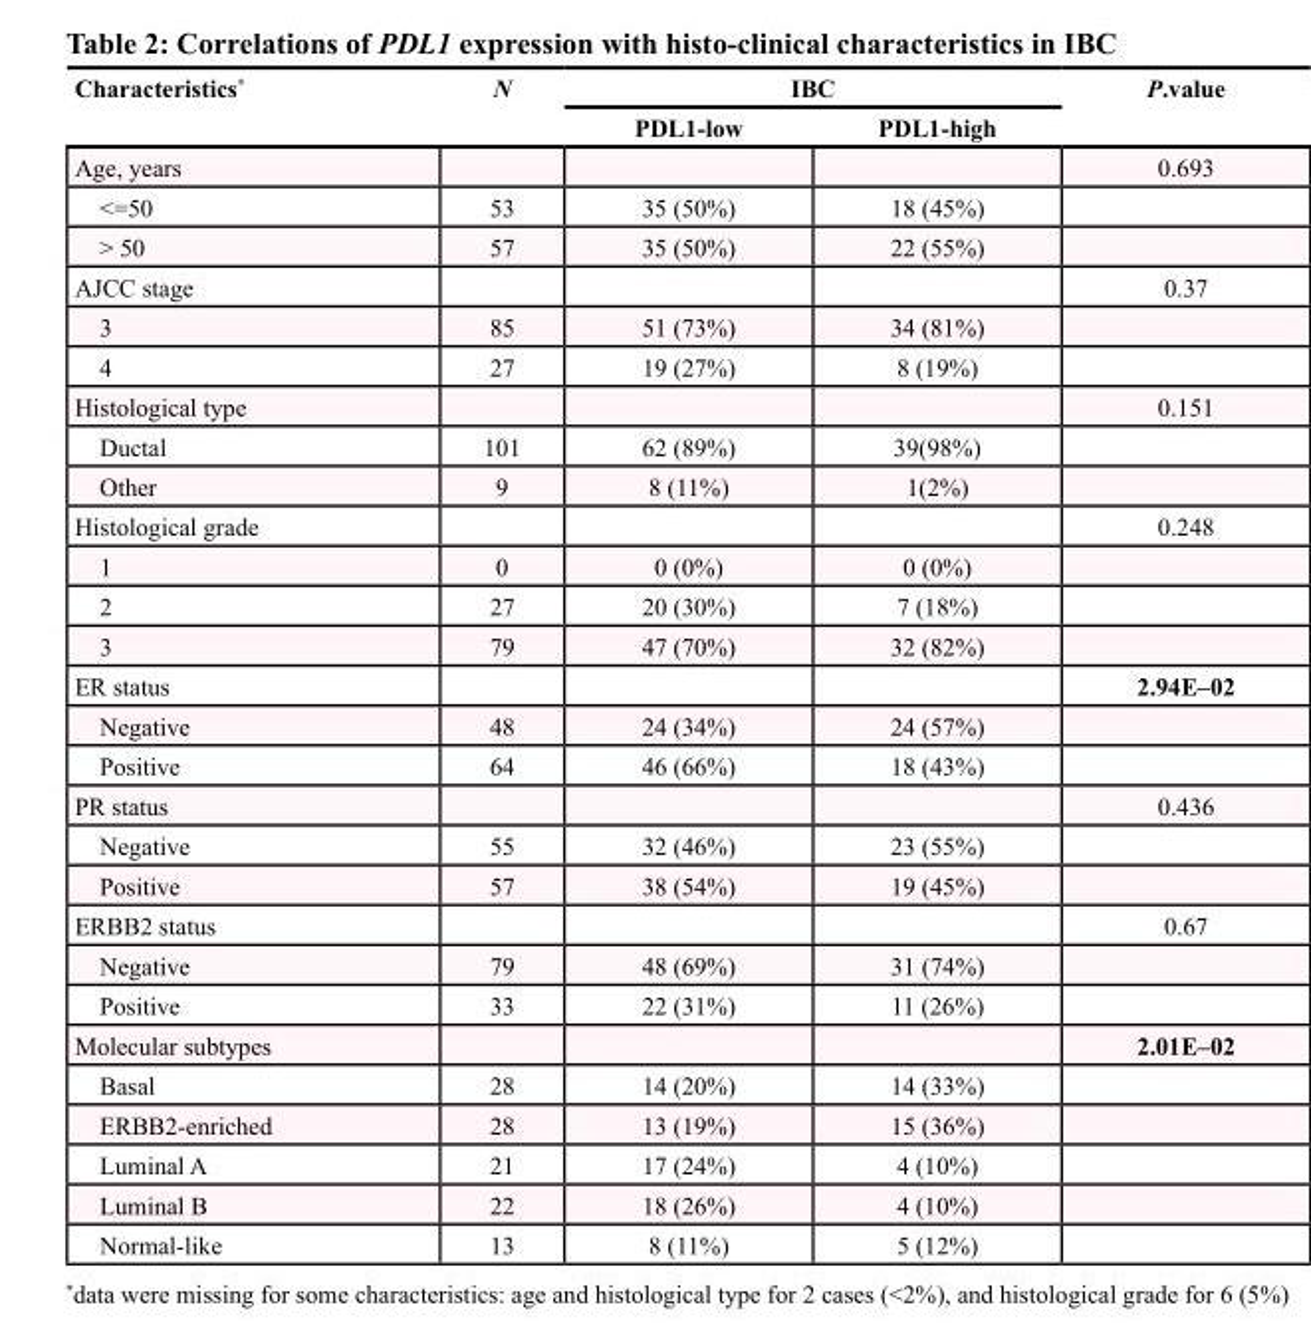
<table><thead><tr><td rowspan="2">Characteristics*</td><td rowspan="2">N</td><td colspan="2">IBC</td><td rowspan="2">P.value</td></tr><tr><td>PDL1-low</td><td>PDL1-high</td></tr></thead><tbody><tr><td>Age, years</td><td></td><td></td><td></td><td>0.693</td></tr><tr><td>&lt;=50</td><td>53</td><td>35 (50%)</td><td>18 (45%)</td><td></td></tr><tr><td>&gt; 50</td><td>57</td><td>35 (50%)</td><td>22 (55%)</td><td></td></tr><tr><td>AJCC stage</td><td></td><td></td><td></td><td>0.37</td></tr><tr><td>3</td><td>85</td><td>51 (73%)</td><td>34 (81%)</td><td></td></tr><tr><td>4</td><td>27</td><td>19 (27%)</td><td>8 (19%)</td><td></td></tr><tr><td>Histological type</td><td></td><td></td><td></td><td>0.151</td></tr><tr><td>Ductal</td><td>101</td><td>62 (89%)</td><td>39(98%)</td><td></td></tr><tr><td>Other</td><td>9</td><td>8 (11%)</td><td>1(2%)</td><td></td></tr><tr><td>Histological grade</td><td></td><td></td><td></td><td>0.248</td></tr><tr><td>1</td><td>0</td><td>0 (0%)</td><td>0 (0%)</td><td></td></tr><tr><td>2</td><td>27</td><td>20 (30%)</td><td>7 (18%)</td><td></td></tr><tr><td>3</td><td>79</td><td>47 (70%)</td><td>32 (82%)</td><td></td></tr><tr><td>ER status</td><td></td><td></td><td></td><td>2.94E–02</td></tr><tr><td>Negative</td><td>48</td><td>24 (34%)</td><td>24 (57%)</td><td></td></tr><tr><td>Positive</td><td>64</td><td>46 (66%)</td><td>18 (43%)</td><td></td></tr><tr><td>PR status</td><td></td><td></td><td></td><td>0.436</td></tr><tr><td>Negative</td><td>55</td><td>32 (46%)</td><td>23 (55%)</td><td></td></tr><tr><td>Positive</td><td>57</td><td>38 (54%)</td><td>19 (45%)</td><td></td></tr><tr><td>ERBB2 status</td><td></td><td></td><td></td><td>0.67</td></tr><tr><td>Negative</td><td>79</td><td>48 (69%)</td><td>31 (74%)</td><td></td></tr><tr><td>Positive</td><td>33</td><td>22 (31%)</td><td>11 (26%)</td><td></td></tr><tr><td>Molecular subtypes</td><td></td><td></td><td></td><td>2.01E–02</td></tr><tr><td>Basal</td><td>28</td><td>14 (20%)</td><td>14 (33%)</td><td></td></tr><tr><td>ERBB2-enriched</td><td>28</td><td>13 (19%)</td><td>15 (36%)</td><td></td></tr><tr><td>Luminal A</td><td>21</td><td>17 (24%)</td><td>4 (10%)</td><td></td></tr><tr><td>Luminal B</td><td>22</td><td>18 (26%)</td><td>4 (10%)</td><td></td></tr><tr><td>Normal-like</td><td>13</td><td>8 (11%)</td><td>5 (12%)</td><td></td></tr></tbody></table>